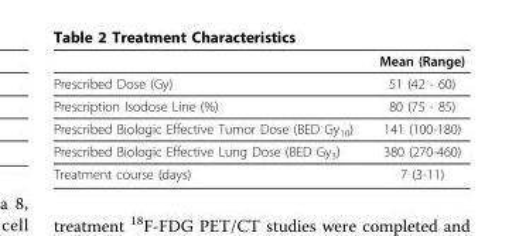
<table><thead><tr><td></td><td>Mean (Range)</td></tr></thead><tbody><tr><td>Prescribed Dose (Gy)</td><td>51 (42 - 60)</td></tr><tr><td>Prescription Isodose Line (%)</td><td>80 (75 - 85)</td></tr><tr><td>Prescribed Biologic Effective Tumor Dose (BED Gy<sub>10</sub>)</td><td>141 (100-180)</td></tr><tr><td>Prescribed Biologic Effective Lung Dose (BED Gy<sub>3</sub>)</td><td>380 (270-460)</td></tr><tr><td>Treatment course (days)</td><td>7 (3-11)</td></tr></tbody></table>